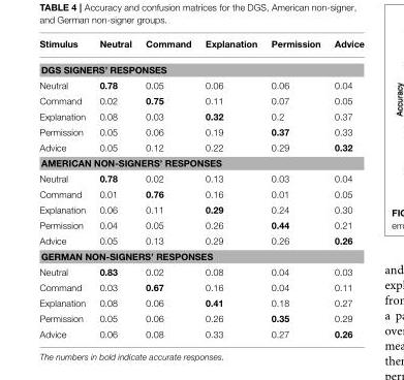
<table><thead><tr><td>Stimulus</td><td>Neutral</td><td>Command</td><td>Explanation</td><td>Permission</td><td>Advice</td></tr></thead><tbody><tr><td colspan="6">DGS SIGNERS’ RESPONSES</td></tr><tr><td>Neutral</td><td>0.78</td><td>0.05</td><td>0.06</td><td>0.06</td><td>0.04</td></tr><tr><td>Command</td><td>0.02</td><td>0.75</td><td>0.11</td><td>0.07</td><td>0.05</td></tr><tr><td>Explanation</td><td>0.08</td><td>0.03</td><td>0.32</td><td>0.2</td><td>0.37</td></tr><tr><td>Permission</td><td>0.05</td><td>0.06</td><td>0.19</td><td>0.37</td><td>0.33</td></tr><tr><td>Advice</td><td>0.05</td><td>0.12</td><td>0.22</td><td>0.29</td><td>0.32</td></tr><tr><td colspan="6">AMERICAN NON-SIGNERS’ RESPONSES</td></tr><tr><td>Neutral</td><td>0.78</td><td>0.02</td><td>0.13</td><td>0.03</td><td>0.04</td></tr><tr><td>Command</td><td>0.01</td><td>0.76</td><td>0.16</td><td>0.01</td><td>0.05</td></tr><tr><td>Explanation</td><td>0.06</td><td>0.11</td><td>0.29</td><td>0.24</td><td>0.30</td></tr><tr><td>Permission</td><td>0.04</td><td>0.05</td><td>0.26</td><td>0.44</td><td>0.21</td></tr><tr><td>Advice</td><td>0.05</td><td>0.13</td><td>0.29</td><td>0.26</td><td>0.26</td></tr><tr><td colspan="6">GERMAN NON-SIGNERS’ RESPONSES</td></tr><tr><td>Neutral</td><td>0.83</td><td>0.02</td><td>0.08</td><td>0.04</td><td>0.03</td></tr><tr><td>Command</td><td>0.03</td><td>0.67</td><td>0.16</td><td>0.04</td><td>0.11</td></tr><tr><td>Explanation</td><td>0.08</td><td>0.06</td><td>0.41</td><td>0.18</td><td>0.27</td></tr><tr><td>Permission</td><td>0.05</td><td>0.06</td><td>0.26</td><td>0.35</td><td>0.29</td></tr><tr><td>Advice</td><td>0.06</td><td>0.08</td><td>0.33</td><td>0.27</td><td>0.26</td></tr></tbody></table>